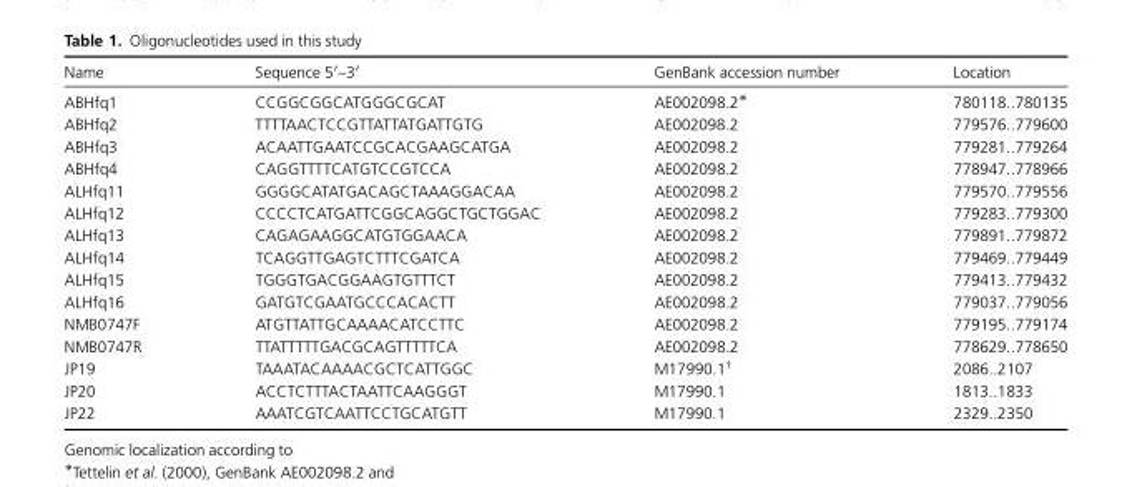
<table><thead><tr><td>Name</td><td>Sequence 5′–3′</td><td>GenBank accession number</td><td>Location</td></tr></thead><tbody><tr><td>ABHfq1</td><td>CCGGCGGCATGGGCGCAT</td><td>AE002098.2*</td><td>780118..780135</td></tr><tr><td>ABHfq2</td><td>TTTTAACTCCGTTATTATGATTGTG</td><td>AE002098.2</td><td>779576..779600</td></tr><tr><td>ABHfq3</td><td>ACAATTGAATCCGCACGAAGCATGA</td><td>AE002098.2</td><td>779281..779264</td></tr><tr><td>ABHfq4</td><td>CAGGTTTTCATGTCCGTCCA</td><td>AE002098.2</td><td>778947..778966</td></tr><tr><td>ALHfq11</td><td>GGGGCATATGACAGCTAAAGGACAA</td><td>AE002098.2</td><td>779570..779556</td></tr><tr><td>ALHfq12</td><td>CCCCTCATGATTCGGCAGGCTGCTGGAC</td><td>AE002098.2</td><td>779283..779300</td></tr><tr><td>ALHfq13</td><td>CAGAGAAGGCATGTGGAACA</td><td>AE002098.2</td><td>779891..779872</td></tr><tr><td>ALHfq14</td><td>TCAGGTTGAGTCTTTCGATCA</td><td>AE002098.2</td><td>779469..779449</td></tr><tr><td>ALHfq15</td><td>TGGGTGACGGAAGTGTTTCT</td><td>AE002098.2</td><td>779413..779432</td></tr><tr><td>ALHfq16</td><td>GATGTCGAATGCCCACACTT</td><td>AE002098.2</td><td>779037..779056</td></tr><tr><td>NMB0747F</td><td>ATGTTATTGCAAAACATCCTTC</td><td>AE002098.2</td><td>779195..779174</td></tr><tr><td>NMB0747R</td><td>TTATTTTTGACGCAGTTTTTCA</td><td>AE002098.2</td><td>778629..778650</td></tr><tr><td>JP19</td><td>TAAATACAAAACGCTCATTGGC</td><td>M17990.1†</td><td>2086..2107</td></tr><tr><td>JP20</td><td>ACCTCTTTACTAATTCAAGGGT</td><td>M17990.1</td><td>1813..1833</td></tr><tr><td>JP22</td><td>AAATCGTCAATTCCTGCATGTT</td><td>M17990.1</td><td>2329..2350</td></tr></tbody></table>